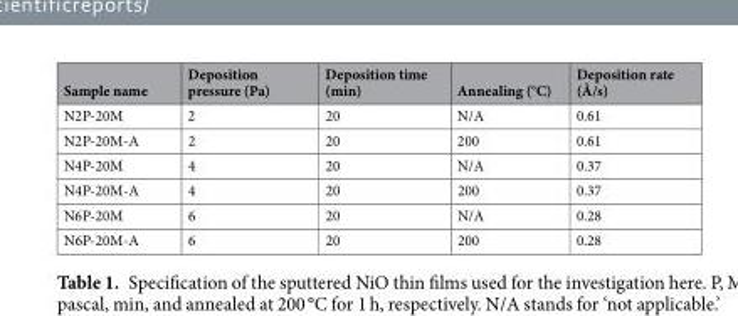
<table><thead><tr><td>Sample name</td><td>Deposition pressure (Pa)</td><td>Deposition time (min)</td><td>Annealing (°C)</td><td>Deposition rate (Å/s)</td></tr></thead><tbody><tr><td>N2P-20M</td><td>2</td><td>20</td><td>N/A</td><td>0.61</td></tr><tr><td>N2P-20M-A</td><td>2</td><td>20</td><td>200</td><td>0.61</td></tr><tr><td>N4P-20M</td><td>4</td><td>20</td><td>N/A</td><td>0.37</td></tr><tr><td>N4P-20M-A</td><td>4</td><td>20</td><td>200</td><td>0.37</td></tr><tr><td>N6P-20M</td><td>6</td><td>20</td><td>N/A</td><td>0.28</td></tr><tr><td>N6P-20M-A</td><td>6</td><td>20</td><td>200</td><td>0.28</td></tr></tbody></table>